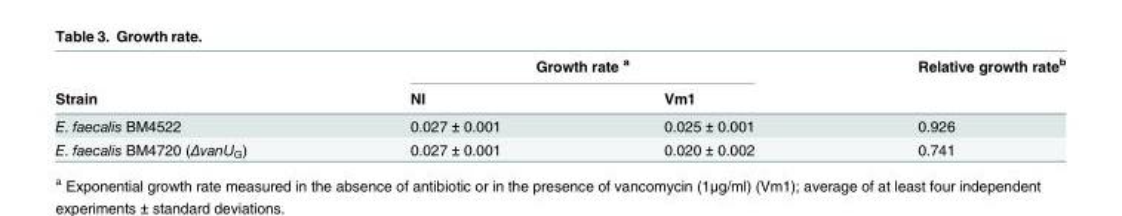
<table><thead><tr><td rowspan="2">Strain</td><td colspan="2">Growth rate <sup>a</sup></td><td rowspan="2">Relative growth rate<sup>b</sup></td></tr><tr><td>NI</td><td>Vm1</td></tr></thead><tbody><tr><td>E. faecalis BM4522</td><td>0.027 ± 0.001</td><td>0.025 ± 0.001</td><td>0.926</td></tr><tr><td>E. faecalis BM4720 (ΔvanU<sub>G</sub>)</td><td>0.027 ± 0.001</td><td>0.020 ± 0.002</td><td>0.741</td></tr></tbody></table>